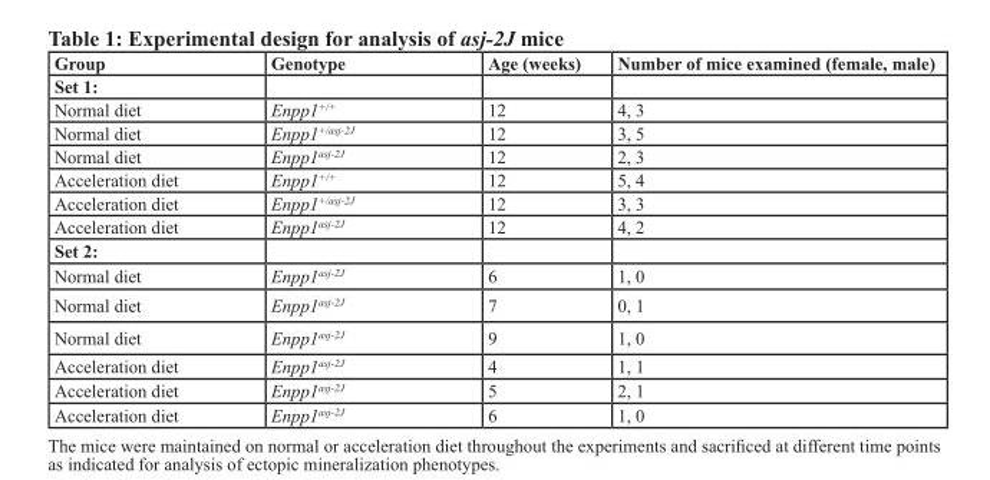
<table><thead><tr><td>Group</td><td>Genotype</td><td>Age (weeks)</td><td>Number of mice examined (female, male)</td></tr></thead><tbody><tr><td colspan="4">Set 1:</td></tr><tr><td>Normal diet</td><td>Enpp1<sup>+/+</sup></td><td>12</td><td>4, 3</td></tr><tr><td>Normal diet</td><td>Enpp1<sup>+/asj-2J</sup></td><td>12</td><td>3, 5</td></tr><tr><td>Normal diet</td><td>Enpp1<sup>asj-2J</sup></td><td>12</td><td>2, 3</td></tr><tr><td>Acceleration diet</td><td>Enpp1<sup>+/+</sup></td><td>12</td><td>5, 4</td></tr><tr><td>Acceleration diet</td><td>Enpp1<sup>+/asj-2J</sup></td><td>12</td><td>3, 3</td></tr><tr><td>Acceleration diet</td><td>Enpp1<sup>asj-2J</sup></td><td>12</td><td>4, 2</td></tr><tr><td colspan="4">Set 2:</td></tr><tr><td>Normal diet</td><td>Enpp1<sup>asj-2J</sup></td><td>6</td><td>1, 0</td></tr><tr><td>Normal diet</td><td>Enpp1<sup>asj-2J</sup></td><td>7</td><td>0, 1</td></tr><tr><td>Normal diet</td><td>Enpp1<sup>asj-2J</sup></td><td>9</td><td>1, 0</td></tr><tr><td>Acceleration diet</td><td>Enpp1<sup>asj-2J</sup></td><td>4</td><td>1, 1</td></tr><tr><td>Acceleration diet</td><td>Enpp1<sup>asj-2J</sup></td><td>5</td><td>2, 1</td></tr><tr><td>Acceleration diet</td><td>Enpp1<sup>asj-2J</sup></td><td>6</td><td>1, 0</td></tr></tbody></table>